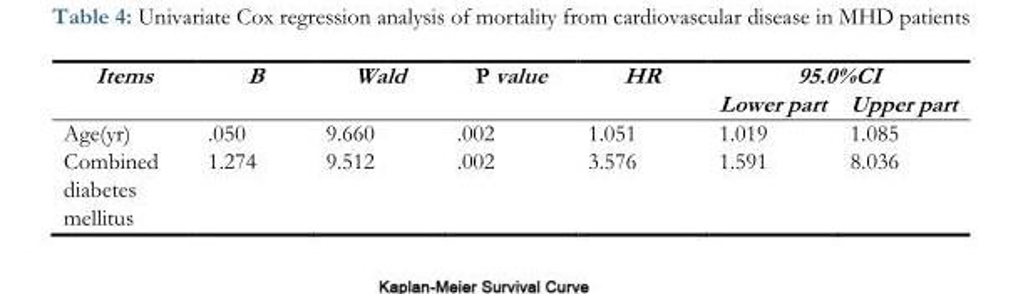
<table><thead><tr><td rowspan="2">Items</td><td rowspan="2">B</td><td rowspan="2">Wald</td><td rowspan="2">P value</td><td rowspan="2">HR</td><td colspan="2">95.0%CI</td></tr><tr><td>Lower part</td><td>Upper part</td></tr></thead><tbody><tr><td>Age(yr)</td><td>.050</td><td>9.660</td><td>.002</td><td>1.051</td><td>1.019</td><td>1.085</td></tr><tr><td>Combined diabetes mellitus</td><td>1.274</td><td>9.512</td><td>.002</td><td>3.576</td><td>1.591</td><td>8.036</td></tr></tbody></table>